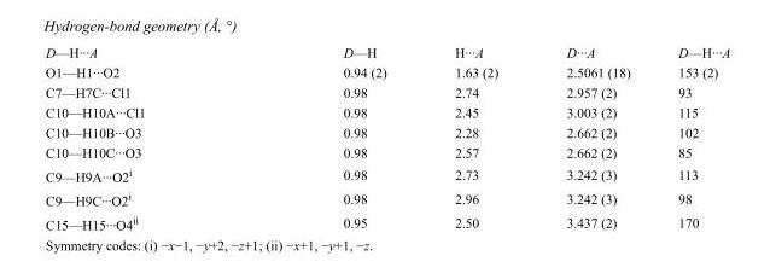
<table><tbody><tr><td>D—H···A</td><td>D—H</td><td>H···A</td><td>D···A</td><td>D—H···A</td></tr><tr><td>O1—H1···O2</td><td>0.94 (2)</td><td>1.63 (2)</td><td>2.5061 (18)</td><td>153 (2)</td></tr><tr><td>C7—H7C···Cl1</td><td>0.98</td><td>2.74</td><td>2.957 (2)</td><td>93</td></tr><tr><td>C10—H10A···Cl1</td><td>0.98</td><td>2.45</td><td>3.003 (2)</td><td>115</td></tr><tr><td>C10—H10B···O3</td><td>0.98</td><td>2.28</td><td>2.662 (2)</td><td>102</td></tr><tr><td>C10—H10C···O3</td><td>0.98</td><td>2.57</td><td>2.662 (2)</td><td>85</td></tr><tr><td>C9—H9A···O2<sup>i</sup></td><td>0.98</td><td>2.73</td><td>3.242 (3)</td><td>113</td></tr><tr><td>C9—H9C···O2<sup>i</sup></td><td>0.98</td><td>2.96</td><td>3.242 (3)</td><td>98</td></tr><tr><td>C15—H15···O4<sup>ii</sup></td><td>0.95</td><td>2.50</td><td>3.437 (2)</td><td>170</td></tr></tbody></table>